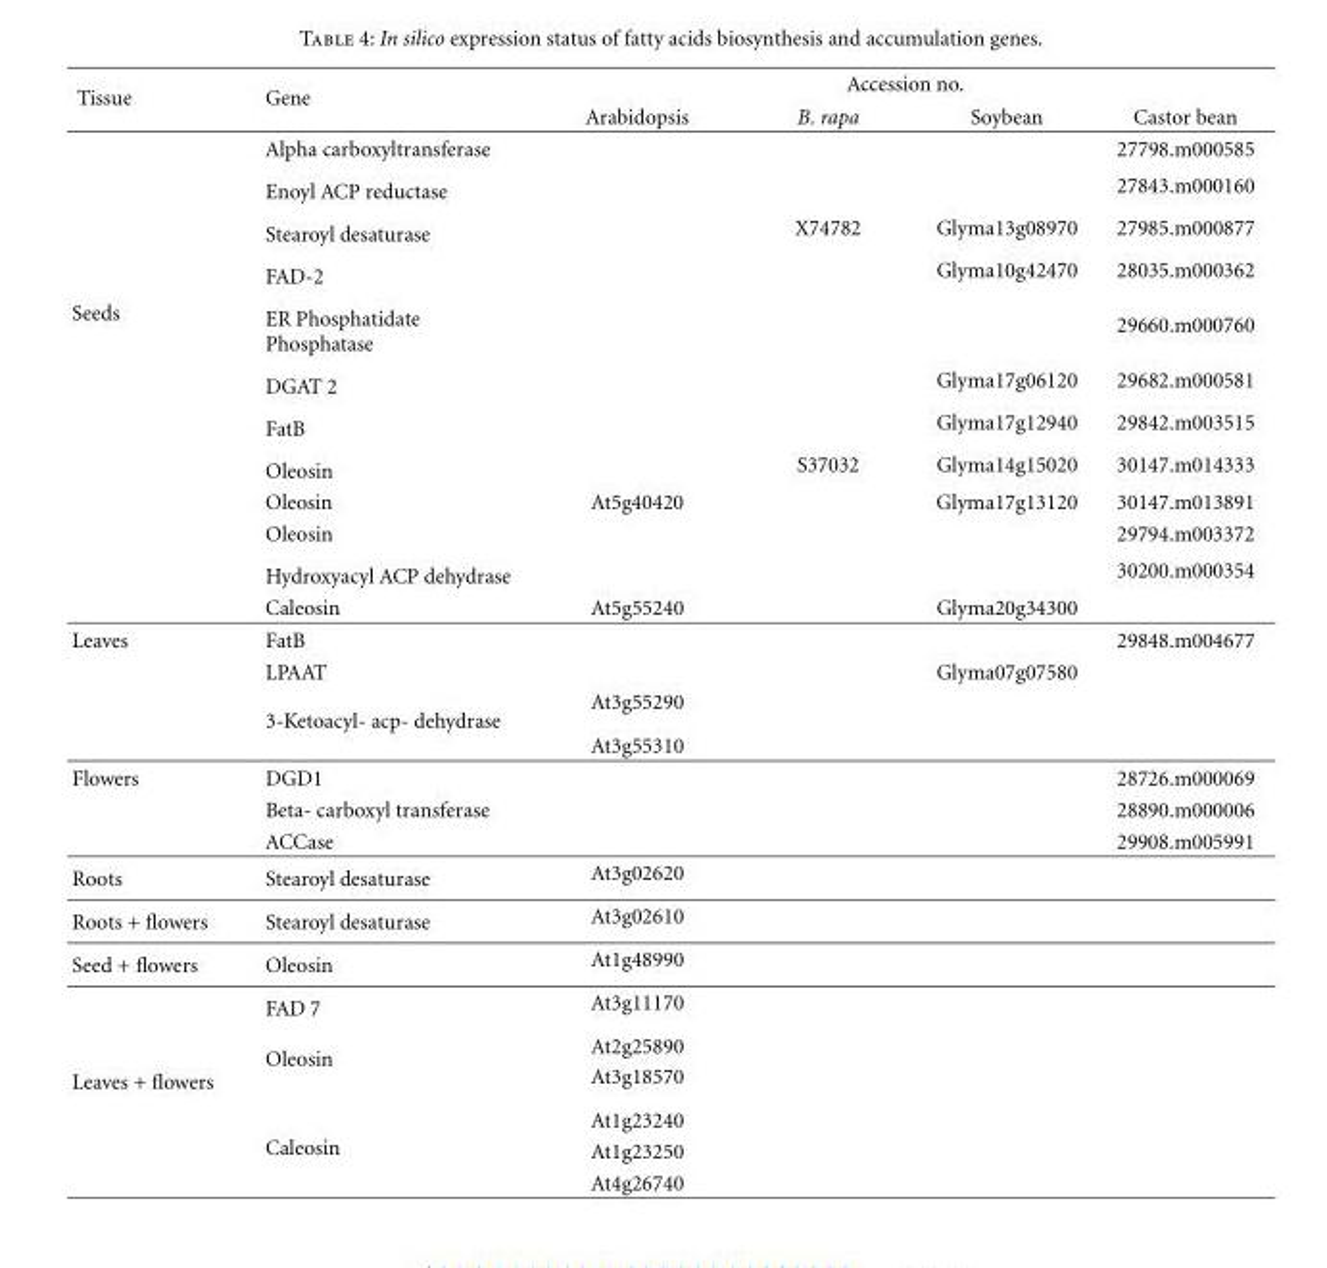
<table><thead><tr><td rowspan="2">Tissue</td><td rowspan="2">Gene</td><td colspan="4">Accession no.</td></tr><tr><td>Arabidopsis</td><td>B. rapa</td><td>Soybean</td><td>Castor bean</td></tr></thead><tbody><tr><td rowspan="12">Seeds</td><td>Alpha carboxyltransferase</td><td></td><td></td><td></td><td>27798.m000585</td></tr><tr><td>Enoyl ACP reductase</td><td></td><td></td><td></td><td>27843.m000160</td></tr><tr><td>Stearoyl desaturase</td><td></td><td>X74782</td><td>Glyma13g08970</td><td>27985.m000877</td></tr><tr><td>FAD-2</td><td></td><td></td><td>Glyma10g42470</td><td>28035.m000362</td></tr><tr><td>ER Phosphatidate Phosphatase</td><td></td><td></td><td></td><td>29660.m000760</td></tr><tr><td>DGAT 2</td><td></td><td></td><td>Glyma17g06120</td><td>29682.m000581</td></tr><tr><td>FatB</td><td></td><td></td><td>Glyma17g12940</td><td>29842.m003515</td></tr><tr><td>Oleosin</td><td></td><td>S37032</td><td>Glyma14g15020</td><td>30147.m014333</td></tr><tr><td>Oleosin</td><td>At5g40420</td><td></td><td>Glyma17g13120</td><td>30147.m013891</td></tr><tr><td>Oleosin</td><td></td><td></td><td></td><td>29794.m003372</td></tr><tr><td>Hydroxyacyl ACP dehydrase</td><td></td><td></td><td></td><td>30200.m000354</td></tr><tr><td>Caleosin</td><td>At5g55240</td><td></td><td>Glyma20g34300</td><td></td></tr><tr><td rowspan="4">Leaves</td><td>FatB</td><td></td><td></td><td></td><td>29848.m004677</td></tr><tr><td>LPAAT</td><td></td><td></td><td>Glyma07g07580</td><td></td></tr><tr><td rowspan="2">3-Ketoacyl- acp- dehydrase</td><td>At3g55290</td><td></td><td></td><td></td></tr><tr><td>At3g55310</td><td></td><td></td><td></td></tr><tr><td rowspan="3">Flowers</td><td>DGD1</td><td></td><td></td><td></td><td>28726.m000069</td></tr><tr><td>Beta- carboxyl transferase</td><td></td><td></td><td></td><td>28890.m000006</td></tr><tr><td>ACCase</td><td></td><td></td><td></td><td>29908.m005991</td></tr><tr><td>Roots</td><td>Stearoyl desaturase</td><td>At3g02620</td><td></td><td></td><td></td></tr><tr><td>Roots + flowers</td><td>Stearoyl desaturase</td><td>At3g02610</td><td></td><td></td><td></td></tr><tr><td>Seed + flowers</td><td>Oleosin</td><td>At1g48990</td><td></td><td></td><td></td></tr><tr><td rowspan="6">Leaves + flowers</td><td>FAD 7</td><td>At3g11170</td><td></td><td></td><td></td></tr><tr><td rowspan="2">Oleosin</td><td>At2g25890</td><td></td><td></td><td></td></tr><tr><td>At3g18570</td><td></td><td></td><td></td></tr><tr><td rowspan="3">Caleosin</td><td>At1g23240</td><td></td><td></td><td></td></tr><tr><td>At1g23250</td><td></td><td></td><td></td></tr><tr><td>At4g26740</td><td></td><td></td><td></td></tr></tbody></table>